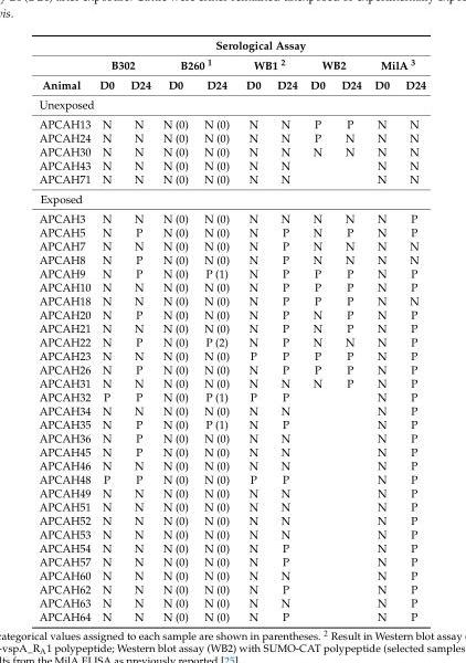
<table><thead><tr><td rowspan="3">Animal</td><td colspan="10">Serological Assay</td></tr><tr><td colspan="2">B302</td><td colspan="2">B260 <sup>1</sup></td><td colspan="2">WB1 <sup>2</sup></td><td colspan="2">WB2</td><td colspan="2">MilA <sup>3</sup></td></tr><tr><td>D0</td><td>D24</td><td>D0</td><td>D24</td><td>D0</td><td>D24</td><td>D0</td><td>D24</td><td>D0</td><td>D24</td></tr></thead><tbody><tr><td colspan="11">Unexposed</td></tr><tr><td>APCAH13</td><td>N</td><td>N</td><td>N (0)</td><td>N (0)</td><td>N</td><td>N</td><td>P</td><td>P</td><td>N</td><td>N</td></tr><tr><td>APCAH24</td><td>N</td><td>N</td><td>N (0)</td><td>N (0)</td><td>N</td><td>N</td><td>P</td><td>N</td><td>N</td><td>N</td></tr><tr><td>APCAH30</td><td>N</td><td>N</td><td>N (0)</td><td>N (0)</td><td>N</td><td>N</td><td>N</td><td>N</td><td>N</td><td>N</td></tr><tr><td>APCAH43</td><td>N</td><td>N</td><td>N (0)</td><td>N (0)</td><td>N</td><td>N</td><td></td><td></td><td>N</td><td>N</td></tr><tr><td>APCAH71</td><td>N</td><td>N</td><td>N (0)</td><td>N (0)</td><td>N</td><td>N</td><td></td><td></td><td>N</td><td>N</td></tr><tr><td colspan="11">Exposed</td></tr><tr><td>APCAH3</td><td>N</td><td>N</td><td>N (0)</td><td>N (0)</td><td>N</td><td>N</td><td>N</td><td>N</td><td>N</td><td>P</td></tr><tr><td>APCAH5</td><td>N</td><td>P</td><td>N (0)</td><td>N (0)</td><td>N</td><td>P</td><td>N</td><td>P</td><td>N</td><td>P</td></tr><tr><td>APCAH7</td><td>N</td><td>N</td><td>N (0)</td><td>N (0)</td><td>N</td><td>P</td><td>N</td><td>N</td><td>N</td><td>N</td></tr><tr><td>APCAH8</td><td>N</td><td>P</td><td>N (0)</td><td>N (0)</td><td>N</td><td>P</td><td>N</td><td>N</td><td>N</td><td>N</td></tr><tr><td>APCAH9</td><td>N</td><td>P</td><td>N (0)</td><td>P (1)</td><td>N</td><td>P</td><td>P</td><td>P</td><td>N</td><td>P</td></tr><tr><td>APCAH10</td><td>N</td><td>N</td><td>N (0)</td><td>N (0)</td><td>N</td><td>P</td><td>P</td><td>P</td><td>N</td><td>P</td></tr><tr><td>APCAH18</td><td>N</td><td>N</td><td>N (0)</td><td>N (0)</td><td>N</td><td>P</td><td>P</td><td>P</td><td>N</td><td>N</td></tr><tr><td>APCAH20</td><td>N</td><td>P</td><td>N (0)</td><td>N (0)</td><td>N</td><td>P</td><td>N</td><td>P</td><td>N</td><td>P</td></tr><tr><td>APCAH21</td><td>N</td><td>N</td><td>N (0)</td><td>N (0)</td><td>N</td><td>P</td><td>N</td><td>P</td><td>N</td><td>P</td></tr><tr><td>APCAH22</td><td>N</td><td>P</td><td>N (0)</td><td>P (2)</td><td>N</td><td>P</td><td>N</td><td>N</td><td>N</td><td>P</td></tr><tr><td>APCAH23</td><td>N</td><td>N</td><td>N (0)</td><td>N (0)</td><td>P</td><td>P</td><td>P</td><td>P</td><td>N</td><td>P</td></tr><tr><td>APCAH26</td><td>N</td><td>P</td><td>N (0)</td><td>N (0)</td><td>N</td><td>P</td><td>P</td><td>P</td><td>N</td><td>P</td></tr><tr><td>APCAH31</td><td>N</td><td>N</td><td>N (0)</td><td>N (0)</td><td>N</td><td>N</td><td>N</td><td>P</td><td>N</td><td>P</td></tr><tr><td>APCAH32</td><td>P</td><td>P</td><td>N (0)</td><td>P (1)</td><td>P</td><td>P</td><td></td><td></td><td>N</td><td>P</td></tr><tr><td>APCAH34</td><td>N</td><td>N</td><td>N (0)</td><td>N (0)</td><td>N</td><td>N</td><td></td><td></td><td>N</td><td>P</td></tr><tr><td>APCAH35</td><td>N</td><td>P</td><td>N (0)</td><td>P (1)</td><td>N</td><td>P</td><td></td><td></td><td>N</td><td>P</td></tr><tr><td>APCAH36</td><td>N</td><td>P</td><td>N (0)</td><td>N (0)</td><td>N</td><td>N</td><td></td><td></td><td>N</td><td>P</td></tr><tr><td>APCAH45</td><td>N</td><td>P</td><td>N (0)</td><td>N (0)</td><td>N</td><td>N</td><td></td><td></td><td>N</td><td>P</td></tr><tr><td>APCAH46</td><td>N</td><td>N</td><td>N (0)</td><td>N (0)</td><td>N</td><td>N</td><td></td><td></td><td>N</td><td>P</td></tr><tr><td>APCAH48</td><td>P</td><td>P</td><td>N (0)</td><td>N (0)</td><td>P</td><td>P</td><td></td><td></td><td>N</td><td>P</td></tr><tr><td>APCAH49</td><td>N</td><td>N</td><td>N (0)</td><td>N (0)</td><td>N</td><td>N</td><td></td><td></td><td>N</td><td>P</td></tr><tr><td>APCAH51</td><td>N</td><td>N</td><td>N (0)</td><td>N (0)</td><td>N</td><td>N</td><td></td><td></td><td>N</td><td>P</td></tr><tr><td>APCAH52</td><td>N</td><td>N</td><td>N (0)</td><td>N (0)</td><td>N</td><td>N</td><td></td><td></td><td>N</td><td>P</td></tr><tr><td>APCAH53</td><td>N</td><td>N</td><td>N (0)</td><td>N (0)</td><td>N</td><td>N</td><td></td><td></td><td>N</td><td>P</td></tr><tr><td>APCAH54</td><td>N</td><td>N</td><td>N (0)</td><td>N (0)</td><td>N</td><td>P</td><td></td><td></td><td>N</td><td>P</td></tr><tr><td>APCAH57</td><td>N</td><td>N</td><td>N (0)</td><td>N (0)</td><td>N</td><td>P</td><td></td><td></td><td>N</td><td>P</td></tr><tr><td>APCAH60</td><td>N</td><td>N</td><td>N (0)</td><td>N (0)</td><td>N</td><td>N</td><td></td><td></td><td>N</td><td>P</td></tr><tr><td>APCAH62</td><td>N</td><td>N</td><td>N (0)</td><td>N (0)</td><td>N</td><td>P</td><td></td><td></td><td>N</td><td>P</td></tr><tr><td>APCAH63</td><td>N</td><td>N</td><td>N (0)</td><td>N (0)</td><td>N</td><td>N</td><td></td><td></td><td>N</td><td>P</td></tr><tr><td>APCAH64</td><td>N</td><td>N</td><td>N (0)</td><td>N (0)</td><td>N</td><td>P</td><td></td><td></td><td>N</td><td>P</td></tr></tbody></table>